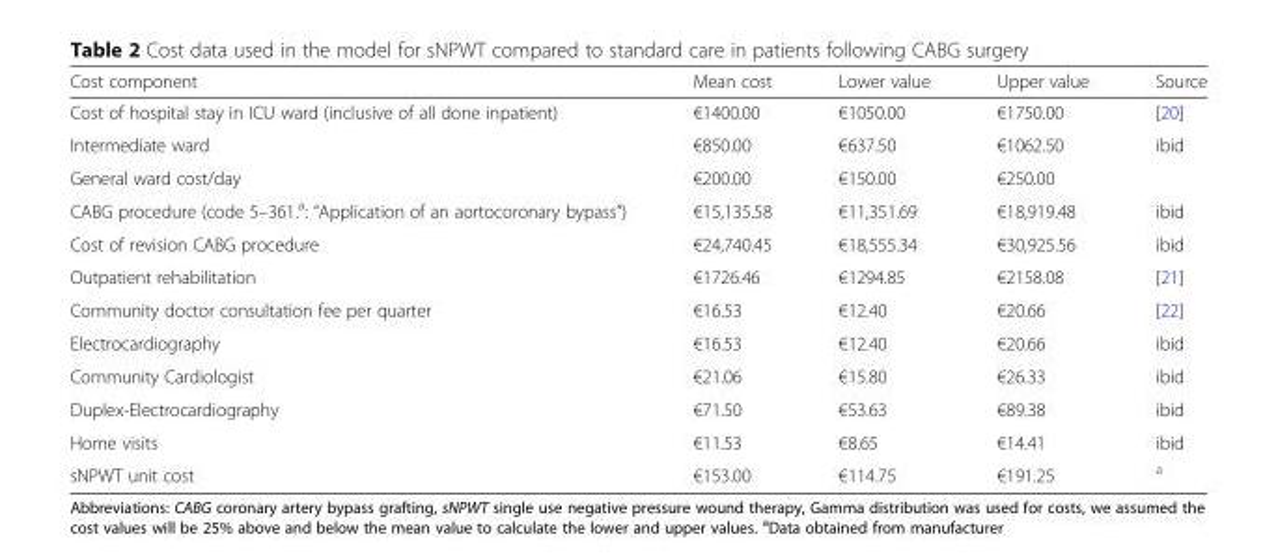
<table><thead><tr><td>Cost component</td><td>Mean cost</td><td>Lower value</td><td>Upper value</td><td>Source</td></tr></thead><tbody><tr><td>Cost of hospital stay in ICU ward (inclusive of all done inpatient)</td><td>€1400.00</td><td>€1050.00</td><td>€1750.00</td><td>[20]</td></tr><tr><td>Intermediate ward</td><td>€850.00</td><td>€637.50</td><td>€1062.50</td><td>ibid</td></tr><tr><td>General ward cost/day</td><td>€200.00</td><td>€150.00</td><td>€250.00</td><td></td></tr><tr><td>CABG procedure (code 5–361.<sup>a</sup>: “Application of an aortocoronary bypass”)</td><td>€15,135.58</td><td>€11,351.69</td><td>€18,919.48</td><td>ibid</td></tr><tr><td>Cost of revision CABG procedure</td><td>€24,740.45</td><td>€18,555.34</td><td>€30,925.56</td><td>ibid</td></tr><tr><td>Outpatient rehabilitation</td><td>€1726.46</td><td>€1294.85</td><td>€2158.08</td><td>[21]</td></tr><tr><td>Community doctor consultation fee per quarter</td><td>€16.53</td><td>€12.40</td><td>€20.66</td><td>[22]</td></tr><tr><td>Electrocardiography</td><td>€16.53</td><td>€12.40</td><td>€20.66</td><td>ibid</td></tr><tr><td>Community Cardiologist</td><td>€21.06</td><td>€15.80</td><td>€26.33</td><td>ibid</td></tr><tr><td>Duplex-Electrocardiography</td><td>€71.50</td><td>€53.63</td><td>€89.38</td><td>ibid</td></tr><tr><td>Home visits</td><td>€11.53</td><td>€8.65</td><td>€14.41</td><td>ibid</td></tr><tr><td>sNPWT unit cost</td><td>€153.00</td><td>€114.75</td><td>€191.25</td><td><sup>a</sup></td></tr></tbody></table>